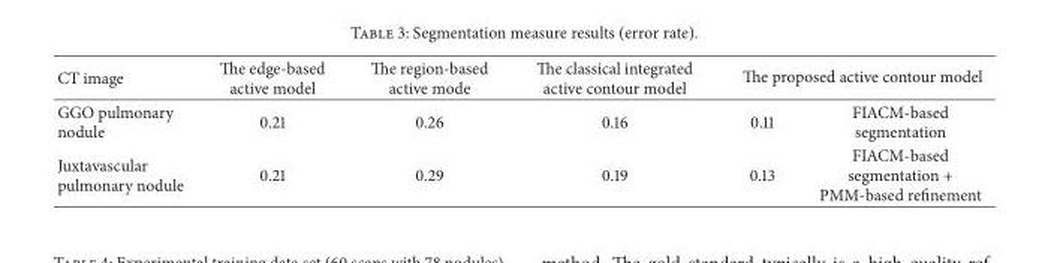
<table><thead><tr><td rowspan="2">CT image GGO pulmonary nodule</td><td rowspan="2">The edge-based active model 0.21</td><td rowspan="2">The region-based active mode 0.26</td><td rowspan="2">The classical integrated active contour model 0.16</td><td colspan="2">The proposed active contour model</td></tr><tr><td>0.11</td><td>FIACM-based segmentation</td></tr></thead><tbody><tr><td>Juxtavascular pulmonary nodule</td><td>0.21</td><td>0.29</td><td>0.19</td><td>0.13</td><td>FIACM-based segmentation + PMM-based refinement</td></tr></tbody></table>